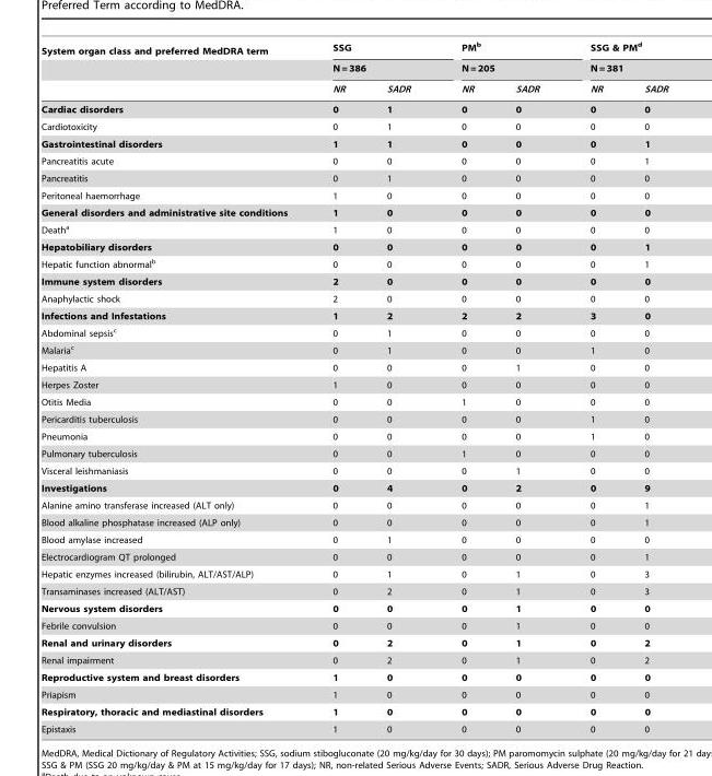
<table><thead><tr><td rowspan="3">System organ class and preferred MedDRA term</td><td rowspan="2" colspan="2">SSG N = 386</td><td rowspan="2" colspan="2">PM<sup>b</sup> N = 205</td><td rowspan="2" colspan="2">SSG &amp; PM<sup>d</sup> N = 381</td></tr><tr></tr><tr><td>NR</td><td>SADR</td><td>NR</td><td>SADR</td><td>NR</td><td>SADR</td></tr></thead><tbody><tr><td>Cardiac disorders</td><td>0</td><td>1</td><td>0</td><td>0</td><td>0</td><td>0</td></tr><tr><td>Cardiotoxicity</td><td>0</td><td>1</td><td>0</td><td>0</td><td>0</td><td>0</td></tr><tr><td>Gastrointestinal disorders</td><td>1</td><td>1</td><td>0</td><td>0</td><td>0</td><td>1</td></tr><tr><td>Pancreatitis acute</td><td>0</td><td>0</td><td>0</td><td>0</td><td>0</td><td>1</td></tr><tr><td>Pancreatitis</td><td>0</td><td>1</td><td>0</td><td>0</td><td>0</td><td>0</td></tr><tr><td>Peritoneal haemorrhage</td><td>1</td><td>0</td><td>0</td><td>0</td><td>0</td><td>0</td></tr><tr><td>General disorders and administrative site conditions</td><td>1</td><td>0</td><td>0</td><td>0</td><td>0</td><td>0</td></tr><tr><td>Death<sup>a</sup></td><td>1</td><td>0</td><td>0</td><td>0</td><td>0</td><td>0</td></tr><tr><td>Hepatobiliary disorders</td><td>0</td><td>0</td><td>0</td><td>0</td><td>0</td><td>1</td></tr><tr><td>Hepatic function abnormal<sup>b</sup></td><td>0</td><td>0</td><td>0</td><td>0</td><td>0</td><td>1</td></tr><tr><td>Immune system disorders</td><td>2</td><td>0</td><td>0</td><td>0</td><td>0</td><td>0</td></tr><tr><td>Anaphylactic shock</td><td>2</td><td>0</td><td>0</td><td>0</td><td>0</td><td>0</td></tr><tr><td>Infections and Infestations</td><td>1</td><td>2</td><td>2</td><td>2</td><td>3</td><td>0</td></tr><tr><td>Abdominal sepsis<sup>c</sup></td><td>0</td><td>1</td><td>0</td><td>0</td><td>0</td><td>0</td></tr><tr><td>Malaria<sup>c</sup></td><td>0</td><td>1</td><td>0</td><td>0</td><td>1</td><td>0</td></tr><tr><td>Hepatitis A</td><td>0</td><td>0</td><td>0</td><td>1</td><td>0</td><td>0</td></tr><tr><td>Herpes Zoster</td><td>1</td><td>0</td><td>0</td><td>0</td><td>0</td><td>0</td></tr><tr><td>Otitis Media</td><td>0</td><td>0</td><td>1</td><td>0</td><td>0</td><td>0</td></tr><tr><td>Pericarditis tuberculosis</td><td>0</td><td>0</td><td>0</td><td>0</td><td>1</td><td>0</td></tr><tr><td>Pneumonia</td><td>0</td><td>0</td><td>0</td><td>0</td><td>1</td><td>0</td></tr><tr><td>Pulmonary tuberculosis</td><td>0</td><td>0</td><td>1</td><td>0</td><td>0</td><td>0</td></tr><tr><td>Visceral leishmaniasis</td><td>0</td><td>0</td><td>0</td><td>1</td><td>0</td><td>0</td></tr><tr><td>Investigations</td><td>0</td><td>4</td><td>0</td><td>2</td><td>0</td><td>9</td></tr><tr><td>Alanine amino transferase increased (ALT only)</td><td>0</td><td>0</td><td>0</td><td>0</td><td>0</td><td>1</td></tr><tr><td>Blood alkaline phosphatase increased (ALP only)</td><td>0</td><td>0</td><td>0</td><td>0</td><td>0</td><td>1</td></tr><tr><td>Blood amylase increased</td><td>0</td><td>1</td><td>0</td><td>0</td><td>0</td><td>0</td></tr><tr><td>Electrocardiogram QT prolonged</td><td>0</td><td>0</td><td>0</td><td>0</td><td>0</td><td>1</td></tr><tr><td>Hepatic enzymes increased (bilirubin, ALT/AST/ALP)</td><td>0</td><td>1</td><td>0</td><td>1</td><td>0</td><td>3</td></tr><tr><td>Transaminases increased (ALT/AST)</td><td>0</td><td>2</td><td>0</td><td>1</td><td>0</td><td>3</td></tr><tr><td>Nervous system disorders</td><td>0</td><td>0</td><td>0</td><td>1</td><td>0</td><td>0</td></tr><tr><td>Febrile convulsion</td><td>0</td><td>0</td><td>0</td><td>1</td><td>0</td><td>0</td></tr><tr><td>Renal and urinary disorders</td><td>0</td><td>2</td><td>0</td><td>1</td><td>0</td><td>2</td></tr><tr><td>Renal impairment</td><td>0</td><td>2</td><td>0</td><td>1</td><td>0</td><td>2</td></tr><tr><td>Reproductive system and breast disorders</td><td>1</td><td>0</td><td>0</td><td>0</td><td>0</td><td>0</td></tr><tr><td>Priapism</td><td>1</td><td>0</td><td>0</td><td>0</td><td>0</td><td>0</td></tr><tr><td>Respiratory, thoracic and mediastinal disorders</td><td>1</td><td>0</td><td>0</td><td>0</td><td>0</td><td>0</td></tr><tr><td>Epistaxis</td><td>1</td><td>0</td><td>0</td><td>0</td><td>0</td><td>0</td></tr></tbody></table>